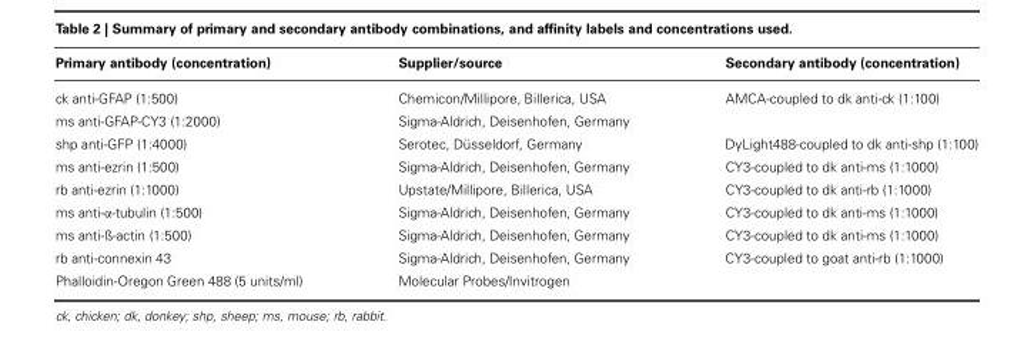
<table><thead><tr><td>Primary antibody (concentration)</td><td>Supplier/source</td><td>Secondary antibody (concentration)</td></tr></thead><tbody><tr><td>ck anti-GFAP (1:500)</td><td>Chemicon/Millipore, Billerica, USA</td><td>AMCA-coupled to dk anti-ck (1:100)</td></tr><tr><td>ms anti-GFAP-CY3 (1:2000)</td><td>Sigma-Aldrich, Deisenhofen, Germany</td><td></td></tr><tr><td>shp anti-GFP (1:4000)</td><td>Serotec, Düsseldorf, Germany</td><td>DyLight488-coupled to dk anti-shp (1:100)</td></tr><tr><td>ms anti-ezrin (1:500)</td><td>Sigma-Aldrich, Deisenhofen, Germany</td><td>CY3-coupled to dk anti-ms (1:1000)</td></tr><tr><td>rb anti-ezrin (1:1000)</td><td>Upstate/Millipore, Billerica, USA</td><td>CY3-coupled to dk anti-rb (1:1000)</td></tr><tr><td>ms anti-α-tubulin (1:500)</td><td>Sigma-Aldrich, Deisenhofen, Germany</td><td>CY3-coupled to dk anti-ms (1:1000)</td></tr><tr><td>ms anti-ß-actin (1:500)</td><td>Sigma-Aldrich, Deisenhofen, Germany</td><td>CY3-coupled to dk anti-ms (1:1000)</td></tr><tr><td>rb anti-connexin 43</td><td>Sigma-Aldrich, Deisenhofen, Germany</td><td>CY3-coupled to goat anti-rb (1:1000)</td></tr><tr><td>Phalloidin-Oregon Green 488 (5 units/ml)</td><td>Molecular Probes/Invitrogen</td><td></td></tr></tbody></table>